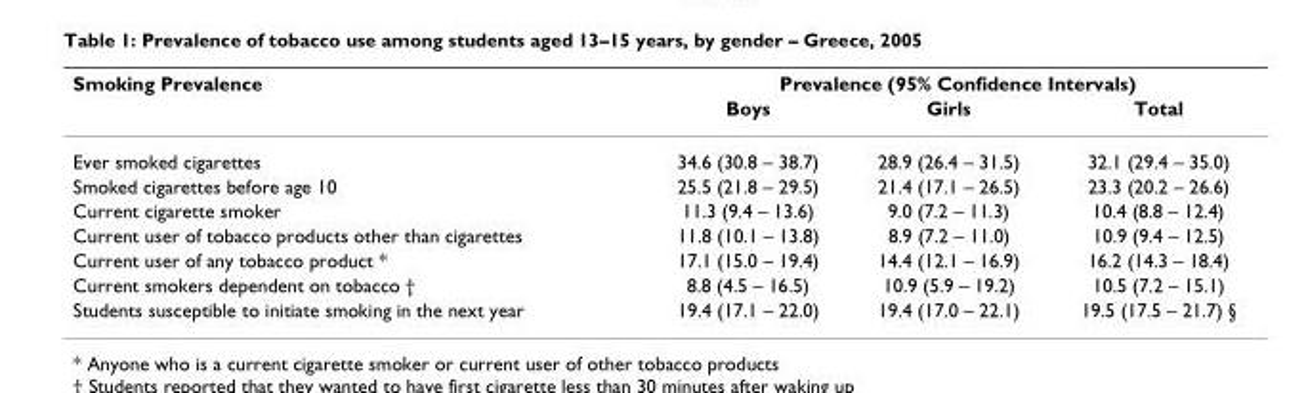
<table><thead><tr><td rowspan="2">Smoking Prevalence</td><td colspan="3">Prevalence (95% Confidence Intervals)</td></tr><tr><td>Boys</td><td>Girls</td><td>Total</td></tr></thead><tbody><tr><td>Ever smoked cigarettes</td><td>34.6 (30.8 – 38.7)</td><td>28.9 (26.4 – 31.5)</td><td>32.1 (29.4 – 35.0)</td></tr><tr><td>Smoked cigarettes before age 10</td><td>25.5 (21.8 – 29.5)</td><td>21.4 (17.1 – 26.5)</td><td>23.3 (20.2 – 26.6)</td></tr><tr><td>Current cigarette smoker</td><td>11.3 (9.4 – 13.6)</td><td>9.0 (7.2 – 11.3)</td><td>10.4 (8.8 – 12.4)</td></tr><tr><td>Current user of tobacco products other than cigarettes</td><td>11.8 (10.1 – 13.8)</td><td>8.9 (7.2 – 11.0)</td><td>10.9 (9.4 – 12.5)</td></tr><tr><td>Current user of any tobacco product *</td><td>17.1 (15.0 – 19.4)</td><td>14.4 (12.1 – 16.9)</td><td>16.2 (14.3 – 18.4)</td></tr><tr><td>Current smokers dependent on tobacco †</td><td>8.8 (4.5 – 16.5)</td><td>10.9 (5.9 – 19.2)</td><td>10.5 (7.2 – 15.1)</td></tr><tr><td>Students susceptible to initiate smoking in the next year</td><td>19.4 (17.1 – 22.0)</td><td>19.4 (17.0 – 22.1)</td><td>19.5 (17.5 – 21.7) §</td></tr></tbody></table>